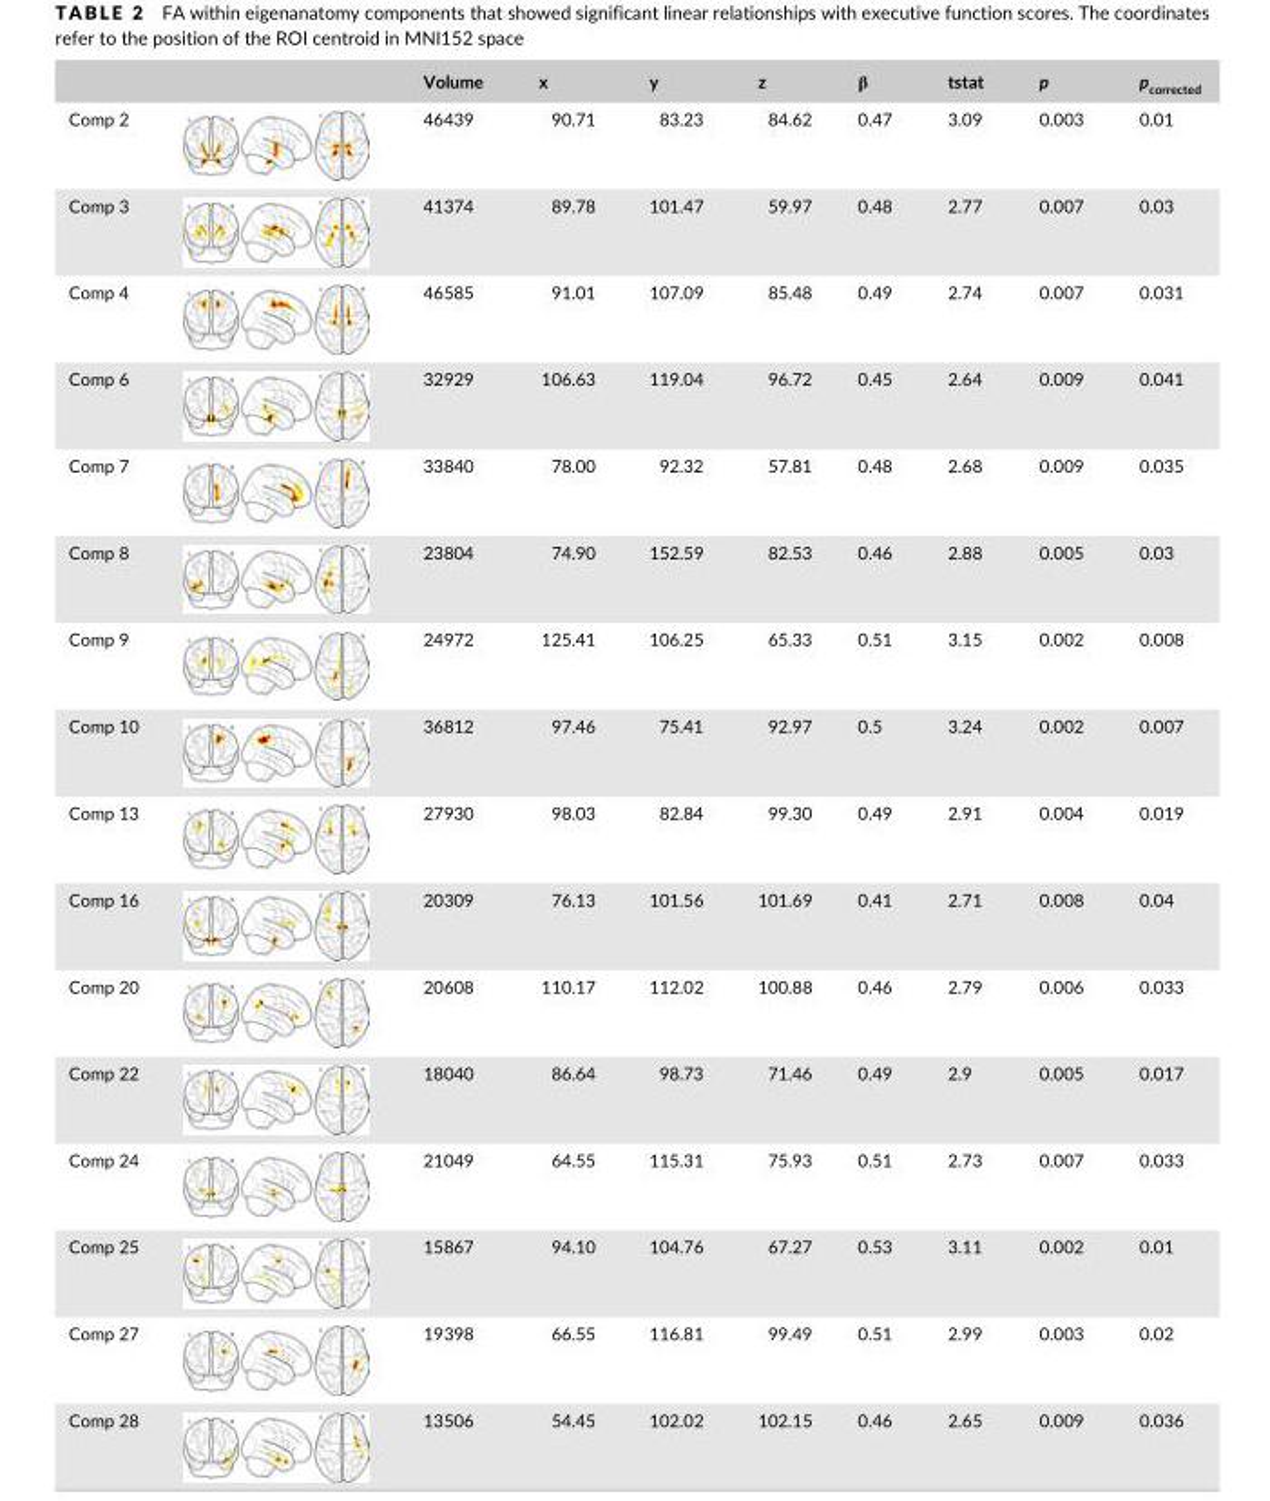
<table><thead><tr><td></td><td>Volume</td><td>x</td><td>y</td><td>z</td><td>β</td><td>tstat</td><td>p</td><td>p<sub>corrected</sub></td></tr></thead><tbody><tr><td>Comp 2</td><td>46439</td><td>90.71</td><td>83.23</td><td>84.62</td><td>0.47</td><td>3.09</td><td>0.003</td><td>0.01</td></tr><tr><td>Comp 3</td><td>41374</td><td>89.78</td><td>101.47</td><td>59.97</td><td>0.48</td><td>2.77</td><td>0.007</td><td>0.03</td></tr><tr><td>Comp 4</td><td>46585</td><td>91.01</td><td>107.09</td><td>85.48</td><td>0.49</td><td>2.74</td><td>0.007</td><td>0.031</td></tr><tr><td>Comp 6</td><td>32929</td><td>106.63</td><td>119.04</td><td>96.72</td><td>0.45</td><td>2.64</td><td>0.009</td><td>0.041</td></tr><tr><td>Comp 7</td><td>33840</td><td>78.00</td><td>92.32</td><td>57.81</td><td>0.48</td><td>2.68</td><td>0.009</td><td>0.035</td></tr><tr><td>Comp 8</td><td>23804</td><td>74.90</td><td>152.59</td><td>82.53</td><td>0.46</td><td>2.88</td><td>0.005</td><td>0.03</td></tr><tr><td>Comp 9</td><td>24972</td><td>125.41</td><td>106.25</td><td>65.33</td><td>0.51</td><td>3.15</td><td>0.002</td><td>0.008</td></tr><tr><td>Comp 10</td><td>36812</td><td>97.46</td><td>75.41</td><td>92.97</td><td>0.5</td><td>3.24</td><td>0.002</td><td>0.007</td></tr><tr><td>Comp 13</td><td>27930</td><td>98.03</td><td>82.84</td><td>99.30</td><td>0.49</td><td>2.91</td><td>0.004</td><td>0.019</td></tr><tr><td>Comp 16</td><td>20309</td><td>76.13</td><td>101.56</td><td>101.69</td><td>0.41</td><td>2.71</td><td>0.008</td><td>0.04</td></tr><tr><td>Comp 20</td><td>20608</td><td>110.17</td><td>112.02</td><td>100.88</td><td>0.46</td><td>2.79</td><td>0.006</td><td>0.033</td></tr><tr><td>Comp 22</td><td>18040</td><td>86.64</td><td>98.73</td><td>71.46</td><td>0.49</td><td>2.9</td><td>0.005</td><td>0.017</td></tr><tr><td>Comp 24</td><td>21049</td><td>64.55</td><td>115.31</td><td>75.93</td><td>0.51</td><td>2.73</td><td>0.007</td><td>0.033</td></tr><tr><td>Comp 25</td><td>15867</td><td>94.10</td><td>104.76</td><td>67.27</td><td>0.53</td><td>3.11</td><td>0.002</td><td>0.01</td></tr><tr><td>Comp 27</td><td>19398</td><td>66.55</td><td>116.81</td><td>99.49</td><td>0.51</td><td>2.99</td><td>0.003</td><td>0.02</td></tr><tr><td>Comp 28</td><td>13506</td><td>54.45</td><td>102.02</td><td>102.15</td><td>0.46</td><td>2.65</td><td>0.009</td><td>0.036</td></tr></tbody></table>